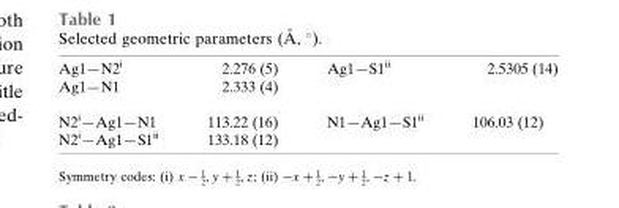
<table><tbody><tr><td>Ag1—N2<sup>i</sup></td><td>2.276 (5)</td><td>Ag1—S1<sup>ii</sup></td><td>2.5305 (14)</td></tr><tr><td>Ag1—N1</td><td>2.333 (4)</td><td></td><td></td></tr><tr><td>N2<sup>i</sup>—Ag1—N1</td><td>113.22 (16)</td><td>N1—Ag1—S1<sup>ii</sup></td><td>106.03 (12)</td></tr><tr><td>N2<sup>i</sup>—Ag1—S1<sup>ii</sup></td><td>133.18 (12)</td><td></td><td></td></tr></tbody></table>